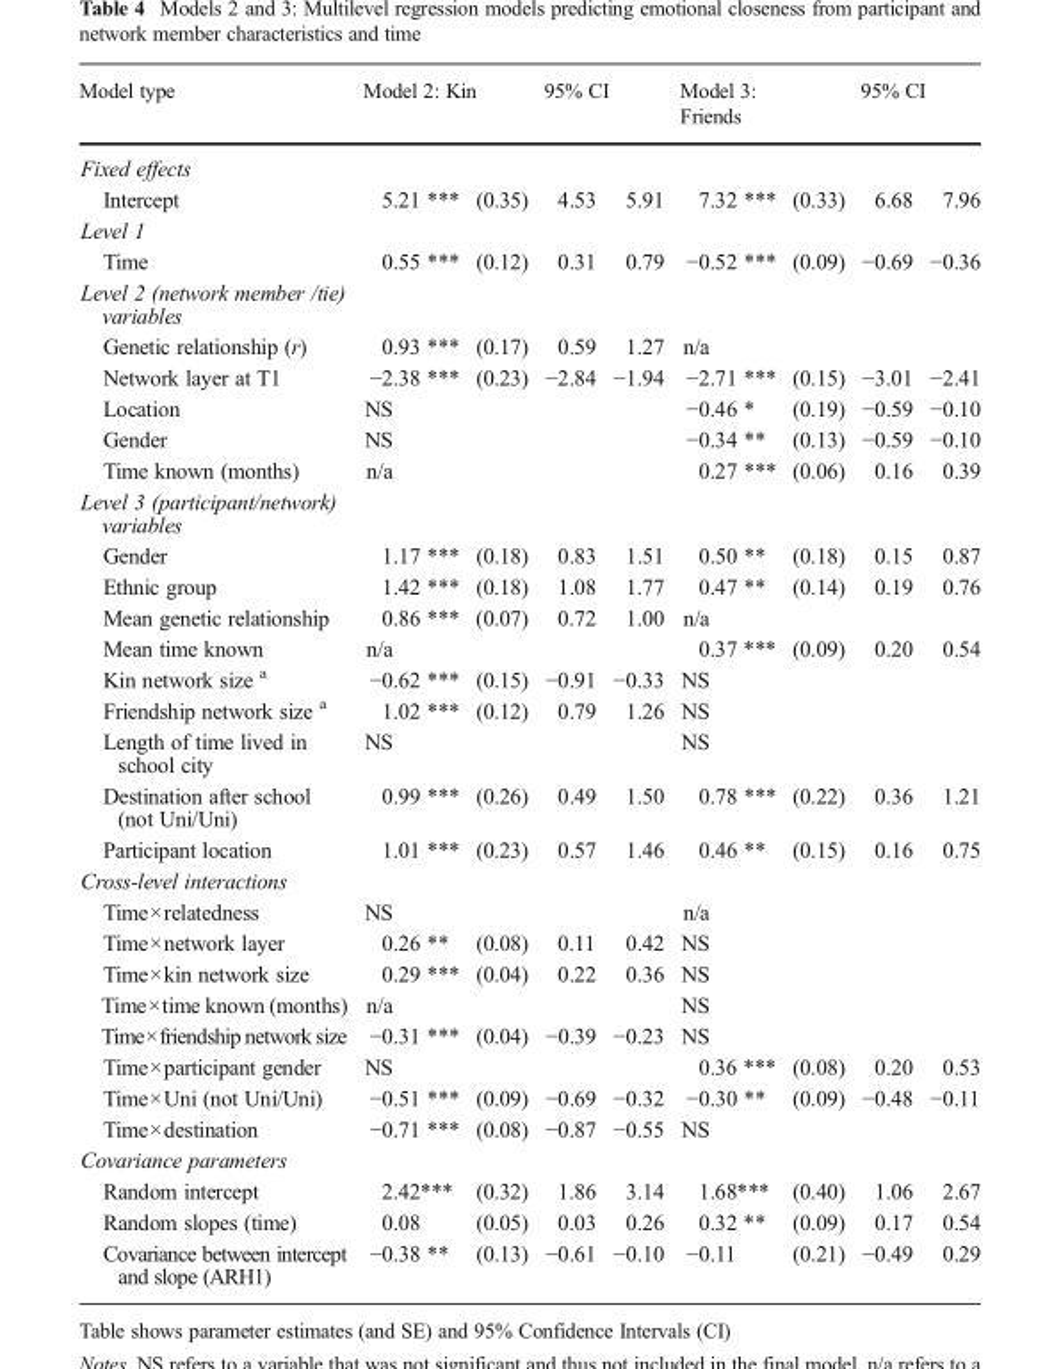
<table><thead><tr><td>Model type</td><td colspan="2">Model 2: Kin</td><td colspan="2">95% CI</td><td colspan="2">Model 3: Friends</td><td colspan="2">95% CI</td></tr><tr><td colspan="9">Fixed effects</td></tr><tr><td>Intercept</td><td>5.21 ***</td><td>(0.35)</td><td>4.53</td><td>5.91</td><td>7.32 ***</td><td>(0.33)</td><td>6.68</td><td>7.96</td></tr></thead><tbody><tr><td colspan="9">Level 1</td></tr><tr><td>Time</td><td>0.55 ***</td><td>(0.12)</td><td>0.31</td><td>0.79</td><td>−0.52 ***</td><td>(0.09)</td><td>−0.69</td><td>−0.36</td></tr><tr><td colspan="9">Level 2 (network member /tie) variables</td></tr><tr><td>Genetic relationship (r)</td><td>0.93 ***</td><td>(0.17)</td><td>0.59</td><td>1.27</td><td>n/a</td><td></td><td></td><td></td></tr><tr><td>Network layer at T1</td><td>−2.38 ***</td><td>(0.23)</td><td>−2.84</td><td>−1.94</td><td>−2.71 ***</td><td>(0.15)</td><td>−3.01</td><td>−2.41</td></tr><tr><td>Location</td><td>NS</td><td></td><td></td><td></td><td>−0.46 *</td><td>(0.19)</td><td>−0.59</td><td>−0.10</td></tr><tr><td>Gender</td><td>NS</td><td></td><td></td><td></td><td>−0.34 **</td><td>(0.13)</td><td>−0.59</td><td>−0.10</td></tr><tr><td>Time known (months)</td><td>n/a</td><td></td><td></td><td></td><td>0.27 ***</td><td>(0.06)</td><td>0.16</td><td>0.39</td></tr><tr><td colspan="9">Level 3 (participant/network) variables</td></tr><tr><td>Gender</td><td>1.17 ***</td><td>(0.18)</td><td>0.83</td><td>1.51</td><td>0.50 **</td><td>(0.18)</td><td>0.15</td><td>0.87</td></tr><tr><td>Ethnic group</td><td>1.42 ***</td><td>(0.18)</td><td>1.08</td><td>1.77</td><td>0.47 **</td><td>(0.14)</td><td>0.19</td><td>0.76</td></tr><tr><td>Mean genetic relationship</td><td>0.86 ***</td><td>(0.07)</td><td>0.72</td><td>1.00</td><td>n/a</td><td></td><td></td><td></td></tr><tr><td>Mean time known</td><td>n/a</td><td></td><td></td><td></td><td>0.37 ***</td><td>(0.09)</td><td>0.20</td><td>0.54</td></tr><tr><td>Kin network size <sup>a</sup></td><td>−0.62 ***</td><td>(0.15)</td><td>−0.91</td><td>−0.33</td><td>NS</td><td></td><td></td><td></td></tr><tr><td>Friendship network size <sup>a</sup></td><td>1.02 ***</td><td>(0.12)</td><td>0.79</td><td>1.26</td><td>NS</td><td></td><td></td><td></td></tr><tr><td>Length of time lived in school city</td><td>NS</td><td></td><td></td><td></td><td>NS</td><td></td><td></td><td></td></tr><tr><td>Destination after school (not Uni/Uni)</td><td>0.99 ***</td><td>(0.26)</td><td>0.49</td><td>1.50</td><td>0.78 ***</td><td>(0.22)</td><td>0.36</td><td>1.21</td></tr><tr><td>Participant location</td><td>1.01 ***</td><td>(0.23)</td><td>0.57</td><td>1.46</td><td>0.46 **</td><td>(0.15)</td><td>0.16</td><td>0.75</td></tr><tr><td colspan="9">Cross-level interactions</td></tr><tr><td>Time×relatedness</td><td>NS</td><td></td><td></td><td></td><td>n/a</td><td></td><td></td><td></td></tr><tr><td>Time×network layer</td><td>0.26 **</td><td>(0.08)</td><td>0.11</td><td>0.42</td><td>NS</td><td></td><td></td><td></td></tr><tr><td>Time×kin network size</td><td>0.29 ***</td><td>(0.04)</td><td>0.22</td><td>0.36</td><td>NS</td><td></td><td></td><td></td></tr><tr><td>Time×time known (months)</td><td>n/a</td><td></td><td></td><td></td><td>NS</td><td></td><td></td><td></td></tr><tr><td>Time×friendshipnetwork size</td><td>−0.31 ***</td><td>(0.04)</td><td>−0.39</td><td>−0.23</td><td>NS</td><td></td><td></td><td></td></tr><tr><td>Time×participant gender</td><td>NS</td><td></td><td></td><td></td><td>0.36 ***</td><td>(0.08)</td><td>0.20</td><td>0.53</td></tr><tr><td>Time×Uni (not Uni/Uni)</td><td>−0.51 ***</td><td>(0.09)</td><td>−0.69</td><td>−0.32</td><td>−0.30 **</td><td>(0.09)</td><td>−0.48</td><td>−0.11</td></tr><tr><td>Time×destination</td><td>−0.71 ***</td><td>(0.08)</td><td>−0.87</td><td>−0.55</td><td>NS</td><td></td><td></td><td></td></tr><tr><td colspan="9">Covariance parameters</td></tr><tr><td>Random intercept</td><td>2.42***</td><td>(0.32)</td><td>1.86</td><td>3.14</td><td>1.68***</td><td>(0.40)</td><td>1.06</td><td>2.67</td></tr><tr><td>Random slopes (time)</td><td>0.08</td><td>(0.05)</td><td>0.03</td><td>0.26</td><td>0.32 **</td><td>(0.09)</td><td>0.17</td><td>0.54</td></tr><tr><td>Covariance between intercept and slope (ARH1)</td><td>−0.38 **</td><td>(0.13)</td><td>−0.61</td><td>−0.10</td><td>−0.11</td><td>(0.21)</td><td>−0.49</td><td>0.29</td></tr></tbody></table>